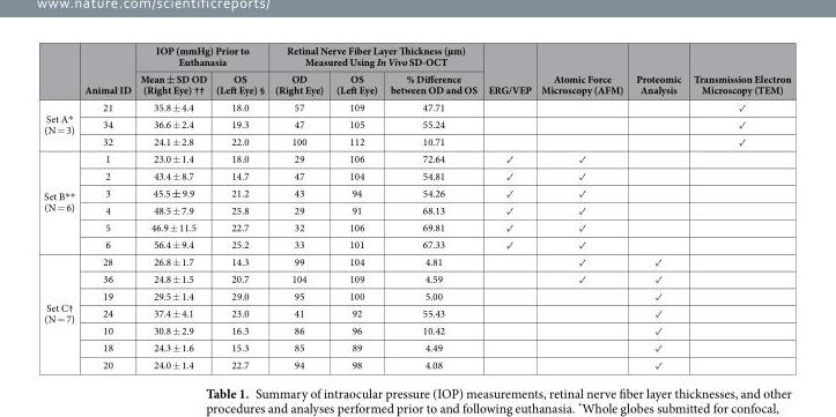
<table><thead><tr><td rowspan="2"></td><td rowspan="2">Animal ID</td><td colspan="2">IOP (mmHg) Prior to Euthanasia</td><td colspan="3">Retinal Nerve Fiber Layer Thickness (µm) Measured Using In Vivo SD-OCT</td><td rowspan="2">ERG/VEP</td><td rowspan="2">Atomic Force Microscopy (AFM)</td><td rowspan="2">Proteomic Analysis</td><td rowspan="2">Transmission Electron Microscopy (TEM)</td></tr><tr><td>Mean ± SD OD (Right Eye) ††</td><td>OS (Left Eye) §</td><td>OD (Right Eye)</td><td>OS (Left Eye)</td><td>% Difference between OD and OS</td></tr></thead><tbody><tr><td rowspan="3">Set A* (N = 3)</td><td>21</td><td>35.8 ± 4.4</td><td>18.0</td><td>57</td><td>109</td><td>47.71</td><td></td><td></td><td></td><td>✓</td></tr><tr><td>34</td><td>36.6 ± 2.4</td><td>19.3</td><td>47</td><td>105</td><td>55.24</td><td></td><td></td><td></td><td>✓</td></tr><tr><td>32</td><td>24.1 ± 2.8</td><td>22.0</td><td>100</td><td>112</td><td>10.71</td><td></td><td></td><td></td><td>✓</td></tr><tr><td rowspan="6">Set B** (N = 6)</td><td>1</td><td>23.0 ± 1.4</td><td>18.0</td><td>29</td><td>106</td><td>72.64</td><td>✓</td><td>✓</td><td></td><td></td></tr><tr><td>2</td><td>43.4 ± 8.7</td><td>14.7</td><td>47</td><td>104</td><td>54.81</td><td>✓</td><td>✓</td><td></td><td></td></tr><tr><td>3</td><td>45.5 ± 9.9</td><td>21.2</td><td>43</td><td>94</td><td>54.26</td><td>✓</td><td>✓</td><td></td><td></td></tr><tr><td>4</td><td>48.5 ± 7.9</td><td>25.8</td><td>29</td><td>91</td><td>68.13</td><td>✓</td><td>✓</td><td></td><td></td></tr><tr><td>5</td><td>46.9 ± 11.5</td><td>22.7</td><td>32</td><td>106</td><td>69.81</td><td>✓</td><td>✓</td><td></td><td></td></tr><tr><td>6</td><td>56.4 ± 9.4</td><td>25.2</td><td>33</td><td>101</td><td>67.33</td><td>✓</td><td>✓</td><td></td><td></td></tr><tr><td rowspan="7">Set C† (N = 7)</td><td>28</td><td>26.8 ± 1.7</td><td>14.3</td><td>99</td><td>104</td><td>4.81</td><td></td><td>✓</td><td>✓</td><td></td></tr><tr><td>36</td><td>24.8 ± 1.5</td><td>20.7</td><td>104</td><td>109</td><td>4.59</td><td></td><td>✓</td><td>✓</td><td></td></tr><tr><td>19</td><td>29.5 ± 1.4</td><td>29.0</td><td>95</td><td>100</td><td>5.00</td><td></td><td></td><td>✓</td><td></td></tr><tr><td>24</td><td>37.4 ± 4.1</td><td>23.0</td><td>41</td><td>92</td><td>55.43</td><td></td><td></td><td>✓</td><td></td></tr><tr><td>10</td><td>30.8 ± 2.9</td><td>16.3</td><td>86</td><td>96</td><td>10.42</td><td></td><td></td><td>✓</td><td></td></tr><tr><td>18</td><td>24.3 ± 1.6</td><td>15.3</td><td>85</td><td>89</td><td>4.49</td><td></td><td></td><td>✓</td><td></td></tr><tr><td>20</td><td>24.0 ± 1.4</td><td>22.7</td><td>94</td><td>98</td><td>4.08</td><td></td><td></td><td>✓</td><td></td></tr></tbody></table>